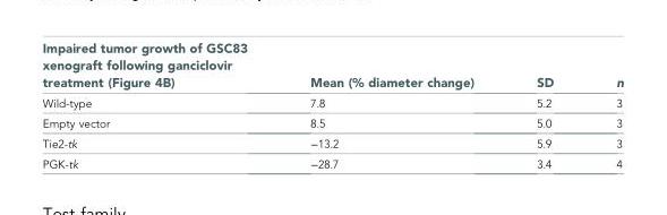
<table><thead><tr><td>Impaired tumor growth of GSC83 xenograft following ganciclovir treatment (Figure 4B)</td><td>Mean (% diameter change)</td><td>SD</td><td>n</td></tr></thead><tbody><tr><td>Wild-type</td><td>7.8</td><td>5.2</td><td>3</td></tr><tr><td>Empty vector</td><td>8.5</td><td>5.0</td><td>3</td></tr><tr><td>Tie2-tk</td><td>−13.2</td><td>5.9</td><td>3</td></tr><tr><td>PGK-tk</td><td>−28.7</td><td>3.4</td><td>4</td></tr></tbody></table>